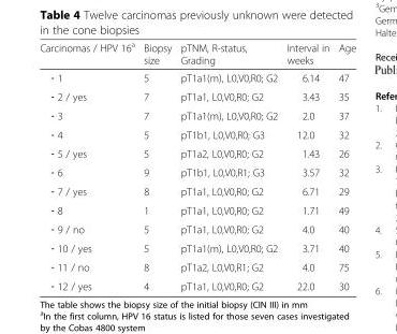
<table><thead><tr><td>Carcinomas / HPV 16<sup>a</sup></td><td>Biopsy size</td><td>pTNM, R-status, Grading</td><td>Interval in weeks</td><td>Age</td></tr></thead><tbody><tr><td>‐ 1</td><td>5</td><td>pT1a1(m), L0,V0,R0; G2</td><td>6.14</td><td>47</td></tr><tr><td>‐ 2 / yes</td><td>7</td><td>pT1a1, L0,V0,R0; G2</td><td>3.43</td><td>35</td></tr><tr><td>‐ 3</td><td>7</td><td>pT1a1(m), L0,V0,R0; G2</td><td>2.0</td><td>37</td></tr><tr><td>‐ 4</td><td>5</td><td>pT1b1, L0,V0,R0; G3</td><td>12.0</td><td>32</td></tr><tr><td>‐ 5 / yes</td><td>5</td><td>pT1a2, L0,V0,R0; G2</td><td>1.43</td><td>26</td></tr><tr><td>‐ 6</td><td>9</td><td>pT1b1, L0,V0,R1; G3</td><td>3.57</td><td>32</td></tr><tr><td>‐ 7 / yes</td><td>8</td><td>pT1a1, L0,V0,R0; G2</td><td>6.71</td><td>29</td></tr><tr><td>‐ 8</td><td>1</td><td>pT1a1, L0,V0,R0; G2</td><td>1.71</td><td>49</td></tr><tr><td>‐ 9 / no</td><td>5</td><td>pT1a1, L0,V0,R0; G2</td><td>4.0</td><td>40</td></tr><tr><td>‐ 10 / yes</td><td>5</td><td>pT1a1(m), L0,V0,R0; G2</td><td>3.71</td><td>40</td></tr><tr><td>‐ 11 / no</td><td>8</td><td>pT1a2, L0,V0,R1; G2</td><td>4.0</td><td>75</td></tr><tr><td>‐ 12 / yes</td><td>4</td><td>pT1a1, L0,V0,R0; G2</td><td>22.0</td><td>30</td></tr></tbody></table>